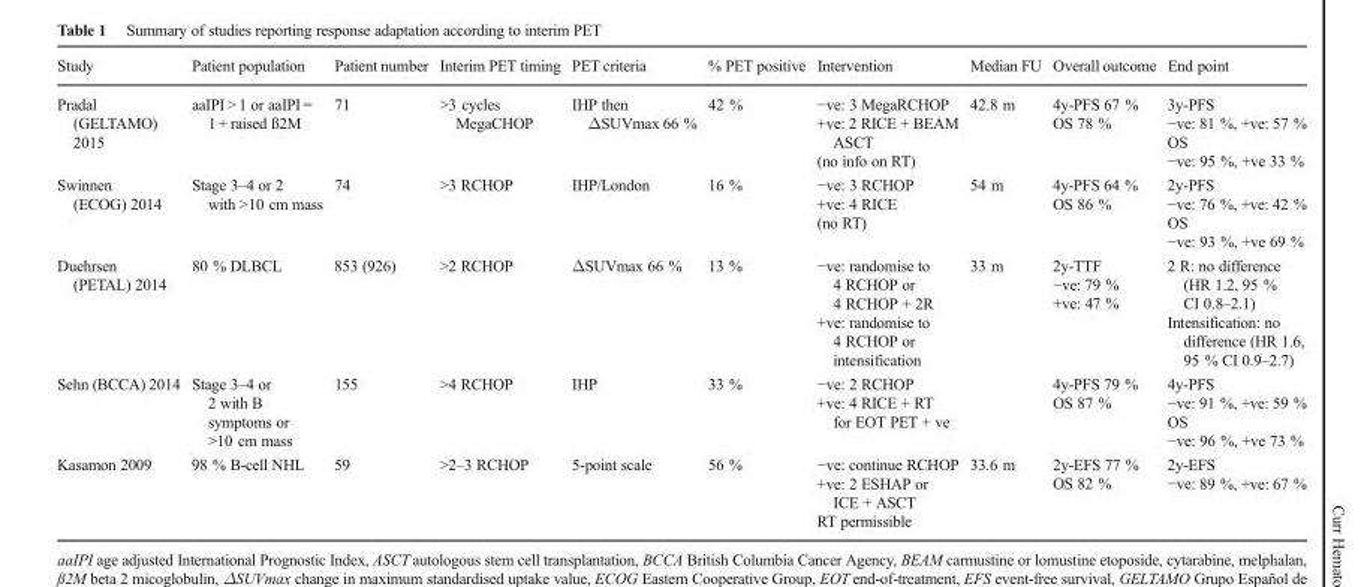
<table><thead><tr><td>Study</td><td>Patient population</td><td>Patient number</td><td>Interim PET timing</td><td>PET criteria</td><td>% PET positive</td><td>Intervention</td><td>Median FU</td><td>Overall outcome</td><td>End point</td></tr></thead><tbody><tr><td>Pradal (GELTAMO) 2015</td><td>aaIPI &gt; 1 or aaIPI = 1 + raised ß2M</td><td>71</td><td>&gt;3 cycles MegaCHOP</td><td>IHP then ΔSUVmax 66 %</td><td>42 %</td><td>−ve: 3 MegaRCHOP +ve: 2 RICE + BEAM ASCT (no info on RT)</td><td>42.8 m</td><td>4y-PFS 67 % OS 78 %</td><td>3y-PFS −ve: 81 %, +ve: 57 % OS −ve: 95 %, +ve 33 %</td></tr><tr><td>Swinnen (ECOG) 2014</td><td>Stage 3–4 or 2 with &gt;10 cm mass</td><td>74</td><td>&gt;3 RCHOP</td><td>IHP/London</td><td>16 %</td><td>−ve: 3 RCHOP +ve: 4 RICE (no RT)</td><td>54 m</td><td>4y-PFS 64 % OS 86 %</td><td>2y-PFS −ve: 76 %, +ve: 42 % OS −ve: 93 %, +ve 69 %</td></tr><tr><td>Duehrsen (PETAL) 2014</td><td>80 % DLBCL</td><td>853 (926)</td><td>&gt;2 RCHOP</td><td>ΔSUVmax 66 %</td><td>13 %</td><td>−ve: randomise to 4 RCHOP or 4 RCHOP + 2R +ve: randomise to 4 RCHOP or intensification</td><td>33 m</td><td>2y-TTF −ve: 79 % +ve: 47 %</td><td>2 R: no difference (HR 1.2, 95 % CI 0.8–2.1) Intensification: no difference (HR 1.6, 95 % CI 0.9–2.7)</td></tr><tr><td>Sehn (BCCA) 2014</td><td>Stage 3–4 or 2 with B symptoms or &gt;10 cm mass</td><td>155</td><td>&gt;4 RCHOP</td><td>IHP</td><td>33 %</td><td>−ve: 2 RCHOP +ve: 4 RICE + RT for EOT PET + ve</td><td></td><td>4y-PFS 79 % OS 87 %</td><td>4y-PFS −ve: 91 %, +ve: 59 % OS −ve: 96 %, +ve 73 %</td></tr><tr><td>Kasamon 2009</td><td>98 % B-cell NHL</td><td>59</td><td>&gt;2–3 RCHOP</td><td>5-point scale</td><td>56 %</td><td>−ve: continue RCHOP +ve: 2 ESHAP or ICE + ASCT RT permissible</td><td>33.6 m</td><td>2y-EFS 77 % OS 82 %</td><td>2y-EFS −ve: 89 %, +ve: 67 %</td></tr></tbody></table>